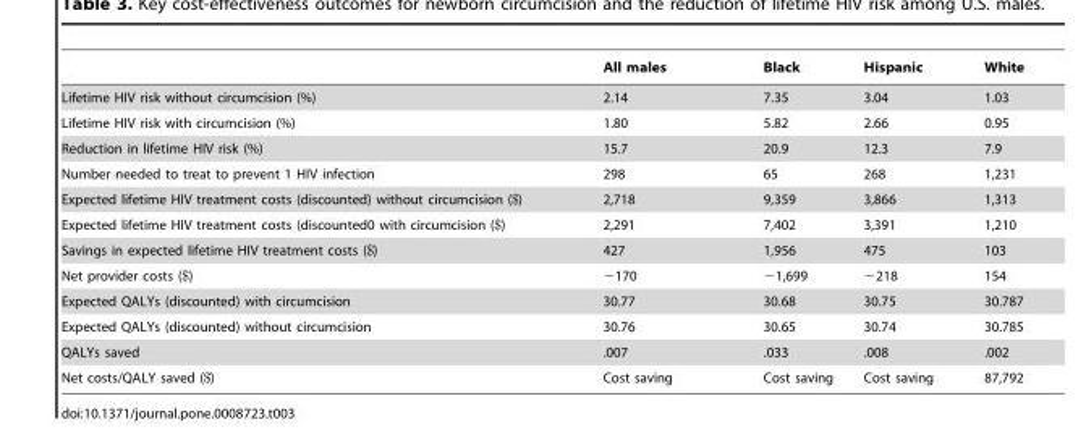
<table><thead><tr><td></td><td>All males</td><td>Black</td><td>Hispanic</td><td>White</td></tr></thead><tbody><tr><td>Lifetime HIV risk without circumcision (%)</td><td>2.14</td><td>7.35</td><td>3.04</td><td>1.03</td></tr><tr><td>Lifetime HIV risk with circumcision (%)</td><td>1.80</td><td>5.82</td><td>2.66</td><td>0.95</td></tr><tr><td>Reduction in lifetime HIV risk (%)</td><td>15.7</td><td>20.9</td><td>12.3</td><td>7.9</td></tr><tr><td>Number needed to treat to prevent 1 HIV infection</td><td>298</td><td>65</td><td>268</td><td>1,231</td></tr><tr><td>Expected lifetime HIV treatment costs (discounted) without circumcision ($)</td><td>2,718</td><td>9,359</td><td>3,866</td><td>1,313</td></tr><tr><td>Expected lifetime HIV treatment costs (discounted0 with circumcision ($)</td><td>2,291</td><td>7,402</td><td>3,391</td><td>1,210</td></tr><tr><td>Savings in expected lifetime HIV treatment costs ($)</td><td>427</td><td>1,956</td><td>475</td><td>103</td></tr><tr><td>Net provider costs ($)</td><td>−170</td><td>−1,699</td><td>−218</td><td>154</td></tr><tr><td>Expected QALYs (discounted) with circumcision</td><td>30.77</td><td>30.68</td><td>30.75</td><td>30.787</td></tr><tr><td>Expected QALYs (discounted) without circumcision</td><td>30.76</td><td>30.65</td><td>30.74</td><td>30.785</td></tr><tr><td>QALYs saved</td><td>.007</td><td>.033</td><td>.008</td><td>.002</td></tr><tr><td>Net costs/QALY saved ($)</td><td>Cost saving</td><td>Cost saving</td><td>Cost saving</td><td>87,792</td></tr></tbody></table>